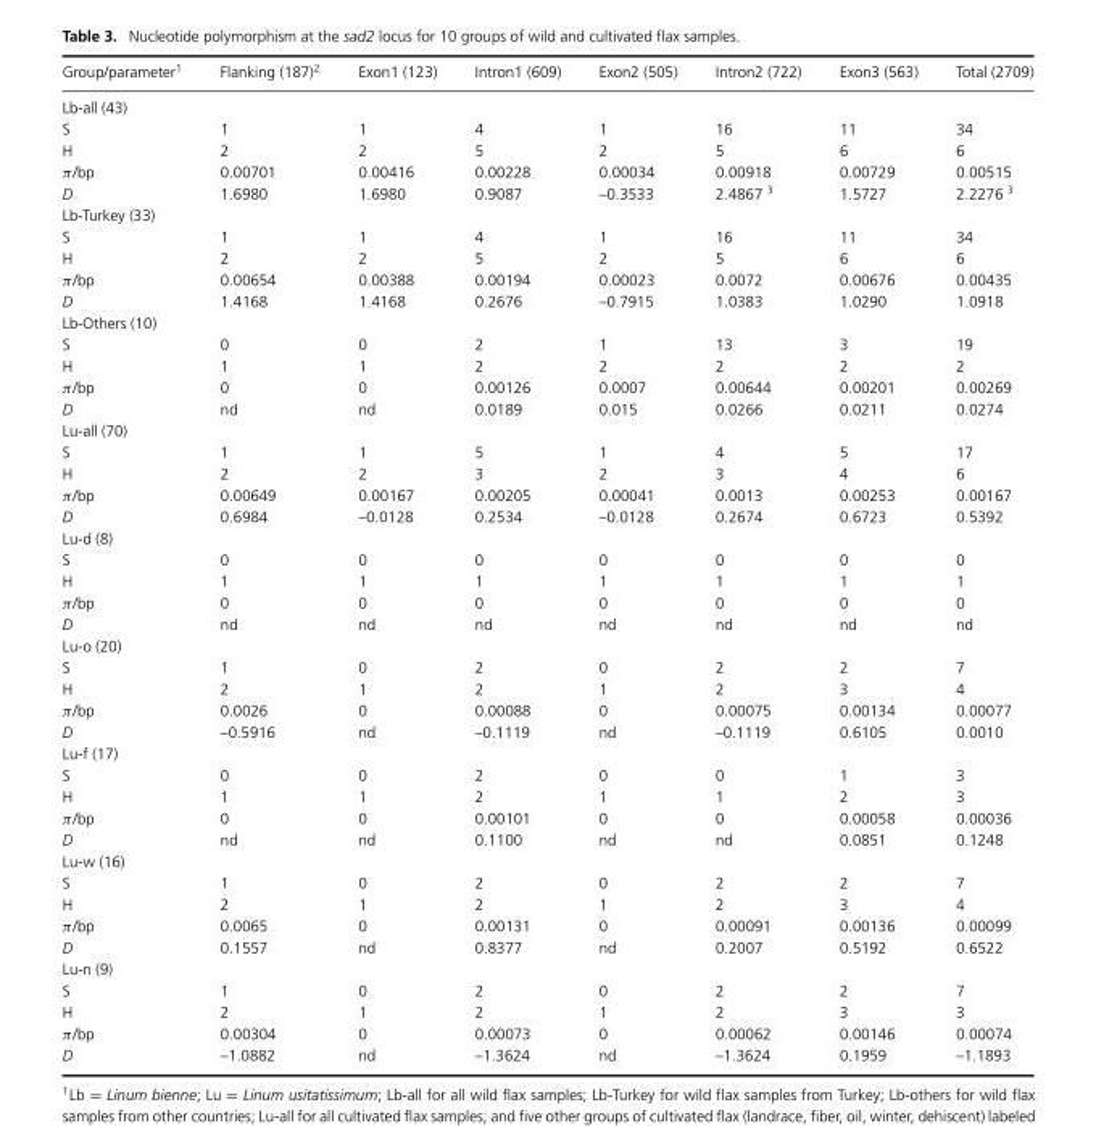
<table><thead><tr><td>Group/parameter<sup>1</sup></td><td>Flanking (187)<sup>2</sup></td><td>Exon1 (123)</td><td>Intron1 (609)</td><td>Exon2 (505)</td><td>Intron2 (722)</td><td>Exon3 (563)</td><td>Total (2709)</td></tr></thead><tbody><tr><td colspan="8">Lb-all (43)</td></tr><tr><td>S</td><td>1</td><td>1</td><td>4</td><td>1</td><td>16</td><td>11</td><td>34</td></tr><tr><td>H</td><td>2</td><td>2</td><td>5</td><td>2</td><td>5</td><td>6</td><td>6</td></tr><tr><td>π/bp</td><td>0.00701</td><td>0.00416</td><td>0.00228</td><td>0.00034</td><td>0.00918</td><td>0.00729</td><td>0.00515</td></tr><tr><td>D</td><td>1.6980</td><td>1.6980</td><td>0.9087</td><td>–0.3533</td><td>2.4867 3</td><td>1.5727</td><td>2.2276 3</td></tr><tr><td colspan="8">Lb-Turkey (33)</td></tr><tr><td>S</td><td>1</td><td>1</td><td>4</td><td>1</td><td>16</td><td>11</td><td>34</td></tr><tr><td>H</td><td>2</td><td>2</td><td>5</td><td>2</td><td>5</td><td>6</td><td>6</td></tr><tr><td>π/bp</td><td>0.00654</td><td>0.00388</td><td>0.00194</td><td>0.00023</td><td>0.0072</td><td>0.00676</td><td>0.00435</td></tr><tr><td>D</td><td>1.4168</td><td>1.4168</td><td>0.2676</td><td>–0.7915</td><td>1.0383</td><td>1.0290</td><td>1.0918</td></tr><tr><td colspan="8">Lb-Others (10)</td></tr><tr><td>S</td><td>0</td><td>0</td><td>2</td><td>1</td><td>13</td><td>3</td><td>19</td></tr><tr><td>H</td><td>1</td><td>1</td><td>2</td><td>2</td><td>2</td><td>2</td><td>2</td></tr><tr><td>π/bp</td><td>0</td><td>0</td><td>0.00126</td><td>0.0007</td><td>0.00644</td><td>0.00201</td><td>0.00269</td></tr><tr><td>D</td><td>nd</td><td>nd</td><td>0.0189</td><td>0.015</td><td>0.0266</td><td>0.0211</td><td>0.0274</td></tr><tr><td colspan="8">Lu-all (70)</td></tr><tr><td>S</td><td>1</td><td>1</td><td>5</td><td>1</td><td>4</td><td>5</td><td>17</td></tr><tr><td>H</td><td>2</td><td>2</td><td>3</td><td>2</td><td>3</td><td>4</td><td>6</td></tr><tr><td>π/bp</td><td>0.00649</td><td>0.00167</td><td>0.00205</td><td>0.00041</td><td>0.0013</td><td>0.00253</td><td>0.00167</td></tr><tr><td>D</td><td>0.6984</td><td>–0.0128</td><td>0.2534</td><td>–0.0128</td><td>0.2674</td><td>0.6723</td><td>0.5392</td></tr><tr><td colspan="8">Lu-d (8)</td></tr><tr><td>S</td><td>0</td><td>0</td><td>0</td><td>0</td><td>0</td><td>0</td><td>0</td></tr><tr><td>H</td><td>1</td><td>1</td><td>1</td><td>1</td><td>1</td><td>1</td><td>1</td></tr><tr><td>π/bp</td><td>0</td><td>0</td><td>0</td><td>0</td><td>0</td><td>0</td><td>0</td></tr><tr><td>D</td><td>nd</td><td>nd</td><td>nd</td><td>nd</td><td>nd</td><td>nd</td><td>nd</td></tr><tr><td colspan="8">Lu-o (20)</td></tr><tr><td>S</td><td>1</td><td>0</td><td>2</td><td>0</td><td>2</td><td>2</td><td>7</td></tr><tr><td>H</td><td>2</td><td>1</td><td>2</td><td>1</td><td>2</td><td>3</td><td>4</td></tr><tr><td>π/bp</td><td>0.0026</td><td>0</td><td>0.00088</td><td>0</td><td>0.00075</td><td>0.00134</td><td>0.00077</td></tr><tr><td>D</td><td>–0.5916</td><td>nd</td><td>–0.1119</td><td>nd</td><td>–0.1119</td><td>0.6105</td><td>0.0010</td></tr><tr><td colspan="8">Lu-f (17)</td></tr><tr><td>S</td><td>0</td><td>0</td><td>2</td><td>0</td><td>0</td><td>1</td><td>3</td></tr><tr><td>H</td><td>1</td><td>1</td><td>2</td><td>1</td><td>1</td><td>2</td><td>3</td></tr><tr><td>π/bp</td><td>0</td><td>0</td><td>0.00101</td><td>0</td><td>0</td><td>0.00058</td><td>0.00036</td></tr><tr><td>D</td><td>nd</td><td>nd</td><td>0.1100</td><td>nd</td><td>nd</td><td>0.0851</td><td>0.1248</td></tr><tr><td colspan="8">Lu-w (16)</td></tr><tr><td>S</td><td>1</td><td>0</td><td>2</td><td>0</td><td>2</td><td>2</td><td>7</td></tr><tr><td>H</td><td>2</td><td>1</td><td>2</td><td>1</td><td>2</td><td>3</td><td>4</td></tr><tr><td>π/bp</td><td>0.0065</td><td>0</td><td>0.00131</td><td>0</td><td>0.00091</td><td>0.00136</td><td>0.00099</td></tr><tr><td>D</td><td>0.1557</td><td>nd</td><td>0.8377</td><td>nd</td><td>0.2007</td><td>0.5192</td><td>0.6522</td></tr><tr><td colspan="8">Lu-n (9)</td></tr><tr><td>S</td><td>1</td><td>0</td><td>2</td><td>0</td><td>2</td><td>2</td><td>7</td></tr><tr><td>H</td><td>2</td><td>1</td><td>2</td><td>1</td><td>2</td><td>3</td><td>3</td></tr><tr><td>π/bp</td><td>0.00304</td><td>0</td><td>0.00073</td><td>0</td><td>0.00062</td><td>0.00146</td><td>0.00074</td></tr><tr><td>D</td><td>–1.0882</td><td>nd</td><td>–1.3624</td><td>nd</td><td>–1.3624</td><td>0.1959</td><td>–1.1893</td></tr></tbody></table>